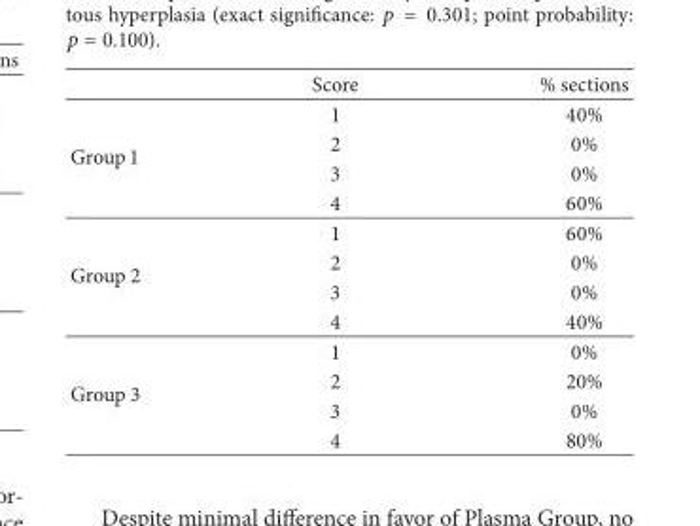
<table><thead><tr><td></td><td>Score</td><td>% sections</td></tr></thead><tbody><tr><td rowspan="4">Group 1</td><td>1</td><td>40%</td></tr><tr><td>2</td><td>0%</td></tr><tr><td>3</td><td>0%</td></tr><tr><td>4</td><td>60%</td></tr><tr><td rowspan="4">Group 2</td><td>1</td><td>60%</td></tr><tr><td>2</td><td>0%</td></tr><tr><td>3</td><td>0%</td></tr><tr><td>4</td><td>40%</td></tr><tr><td rowspan="4">Group 3</td><td>1</td><td>0%</td></tr><tr><td>2</td><td>20%</td></tr><tr><td>3</td><td>0%</td></tr><tr><td>4</td><td>80%</td></tr></tbody></table>